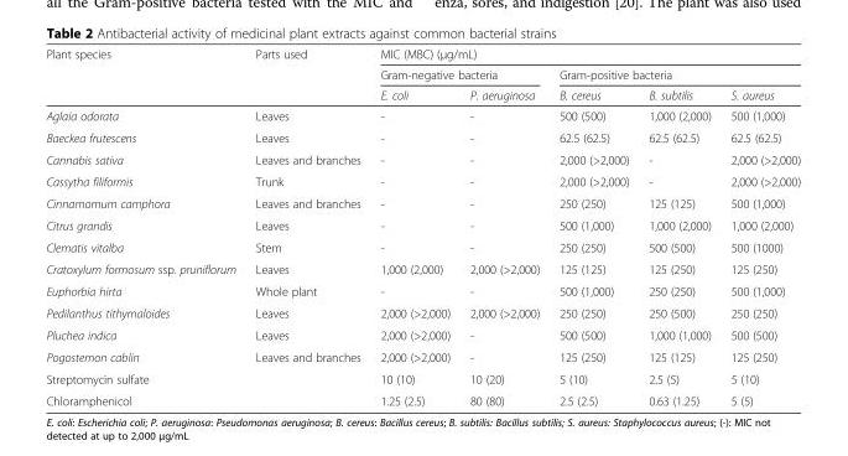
<table><thead><tr><td rowspan="3">Plant species</td><td rowspan="3">Parts used</td><td colspan="5">MIC (MBC) (μg/mL)</td></tr><tr><td colspan="2">Gram-negative bacteria</td><td colspan="3">Gram-positive bacteria</td></tr><tr><td>E. coli</td><td>P. aeruginosa</td><td>B. cereus</td><td>B. subtilis</td><td>S. aureus</td></tr></thead><tbody><tr><td>Aglaia odorata</td><td>Leaves</td><td>-</td><td>-</td><td>500 (500)</td><td>1,000 (2,000)</td><td>500 (1,000)</td></tr><tr><td>Baeckea frutescens</td><td>Leaves</td><td>-</td><td>-</td><td>62.5 (62.5)</td><td>62.5 (62.5)</td><td>62.5 (62.5)</td></tr><tr><td>Cannabis sativa</td><td>Leaves and branches</td><td>-</td><td>-</td><td>2,000 (&gt;2,000)</td><td>-</td><td>2,000 (&gt;2,000)</td></tr><tr><td>Cassytha filiformis</td><td>Trunk</td><td>-</td><td>-</td><td>2,000 (&gt;2,000)</td><td>-</td><td>2,000 (&gt;2,000)</td></tr><tr><td>Cinnamomum camphora</td><td>Leaves and branches</td><td>-</td><td>-</td><td>250 (250)</td><td>125 (125)</td><td>500 (1,000)</td></tr><tr><td>Citrus grandis</td><td>Leaves</td><td>-</td><td>-</td><td>500 (1,000)</td><td>1,000 (2,000)</td><td>1,000 (2,000)</td></tr><tr><td>Clematis vitalba</td><td>Stem</td><td>-</td><td>-</td><td>250 (250)</td><td>500 (500)</td><td>500 (1000)</td></tr><tr><td>Cratoxylum formosum ssp. pruniflorum</td><td>Leaves</td><td>1,000 (2,000)</td><td>2,000 (&gt;2,000)</td><td>125 (125)</td><td>125 (250)</td><td>125 (250)</td></tr><tr><td>Euphorbia hirta</td><td>Whole plant</td><td>-</td><td>-</td><td>500 (1,000)</td><td>250 (250)</td><td>500 (1,000)</td></tr><tr><td>Pedilanthus tithymaloides</td><td>Leaves</td><td>2,000 (&gt;2,000)</td><td>2,000 (&gt;2,000)</td><td>250 (250)</td><td>250 (500)</td><td>250 (250)</td></tr><tr><td>Pluchea indica</td><td>Leaves</td><td>2,000 (&gt;2,000)</td><td>-</td><td>500 (500)</td><td>1,000 (1,000)</td><td>500 (500)</td></tr><tr><td>Pogostemon cablin</td><td>Leaves and branches</td><td>2,000 (&gt;2,000)</td><td>-</td><td>125 (250)</td><td>125 (125)</td><td>125 (250)</td></tr><tr><td>Streptomycin sulfate</td><td></td><td>10 (10)</td><td>10 (20)</td><td>5 (10)</td><td>2.5 (5)</td><td>5 (10)</td></tr><tr><td>Chloramphenicol</td><td></td><td>1.25 (2.5)</td><td>80 (80)</td><td>2.5 (2.5)</td><td>0.63 (1.25)</td><td>5 (5)</td></tr></tbody></table>